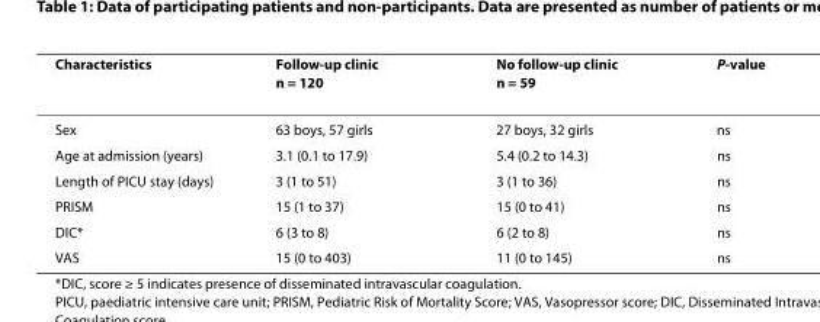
<table><thead><tr><td>Characteristics</td><td>Follow-up clinic n = 120</td><td>No follow-up clinic n = 59</td><td>P-value</td></tr></thead><tbody><tr><td>Sex</td><td>63 boys, 57 girls</td><td>27 boys, 32 girls</td><td>ns</td></tr><tr><td>Age at admission (years)</td><td>3.1 (0.1 to 17.9)</td><td>5.4 (0.2 to 14.3)</td><td>ns</td></tr><tr><td>Length of PICU stay (days)</td><td>3 (1 to 51)</td><td>3 (1 to 36)</td><td>ns</td></tr><tr><td>PRISM</td><td>15 (1 to 37)</td><td>15 (0 to 41)</td><td>ns</td></tr><tr><td>DIC*</td><td>6 (3 to 8)</td><td>6 (2 to 8)</td><td>ns</td></tr><tr><td>VAS</td><td>15 (0 to 403)</td><td>11 (0 to 145)</td><td>ns</td></tr></tbody></table>